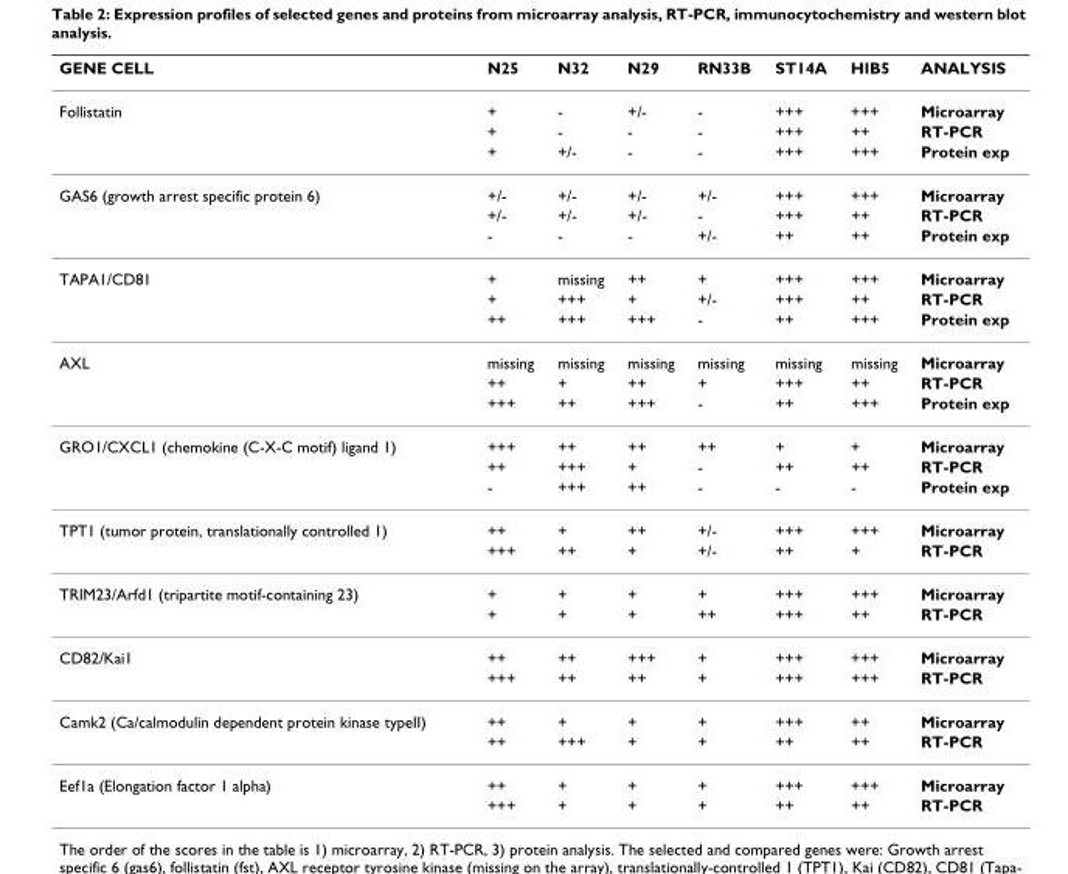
<table><thead><tr><td>GENE CELL</td><td>N25</td><td>N32</td><td>N29</td><td>RN33B</td><td>ST14A</td><td>HIB5</td><td>ANALYSIS</td></tr></thead><tbody><tr><td rowspan="3">Follistatin</td><td>+</td><td>-</td><td>+/-</td><td>-</td><td>+++</td><td>+++</td><td>Microarray</td></tr><tr><td>+</td><td>-</td><td>-</td><td>-</td><td>+++</td><td>++</td><td>RT-PCR</td></tr><tr><td>+</td><td>+/-</td><td>-</td><td>-</td><td>+++</td><td>+++</td><td>Protein exp</td></tr><tr><td rowspan="3">GAS6 (growth arrest specific protein 6)</td><td>+/-</td><td>+/-</td><td>+/-</td><td>+/-</td><td>+++</td><td>+++</td><td>Microarray</td></tr><tr><td>+/-</td><td>+/-</td><td>+/-</td><td>-</td><td>+++</td><td>++</td><td>RT-PCR</td></tr><tr><td>-</td><td>-</td><td>-</td><td>+/-</td><td>++</td><td>++</td><td>Protein exp</td></tr><tr><td rowspan="3">TAPA1/CD81</td><td>+</td><td>missing</td><td>++</td><td>+</td><td>+++</td><td>+++</td><td>Microarray</td></tr><tr><td>+</td><td>+++</td><td>+</td><td>+/-</td><td>+++</td><td>++</td><td>RT-PCR</td></tr><tr><td>++</td><td>+++</td><td>+++</td><td>-</td><td>++</td><td>+++</td><td>Protein exp</td></tr><tr><td rowspan="3">AXL</td><td>missing</td><td>missing</td><td>missing</td><td>missing</td><td>missing</td><td>missing</td><td>Microarray</td></tr><tr><td>++</td><td>+</td><td>++</td><td>+</td><td>+++</td><td>++</td><td>RT-PCR</td></tr><tr><td>+++</td><td>++</td><td>+++</td><td>-</td><td>++</td><td>+++</td><td>Protein exp</td></tr><tr><td rowspan="3">GRO1/CXCL1 (chemokine (C-X-C motif) ligand 1)</td><td>+++</td><td>++</td><td>++</td><td>++</td><td>+</td><td>+</td><td>Microarray</td></tr><tr><td>++</td><td>+++</td><td>+</td><td>-</td><td>++</td><td>++</td><td>RT-PCR</td></tr><tr><td>-</td><td>+++</td><td>++</td><td>-</td><td>-</td><td>-</td><td>Protein exp</td></tr><tr><td rowspan="2">TPT1 (tumor protein, translationally controlled 1)</td><td>++</td><td>+</td><td>++</td><td>+/-</td><td>+++</td><td>+++</td><td>Microarray</td></tr><tr><td>+++</td><td>++</td><td>+</td><td>+/-</td><td>++</td><td>+</td><td>RT-PCR</td></tr><tr><td rowspan="2">TRIM23/Arfd1 (tripartite motif-containing 23)</td><td>+</td><td>+</td><td>+</td><td>+</td><td>+++</td><td>+++</td><td>Microarray</td></tr><tr><td>+</td><td>+</td><td>+</td><td>++</td><td>+++</td><td>++</td><td>RT-PCR</td></tr><tr><td rowspan="2">CD82/Kai1</td><td>++</td><td>++</td><td>+++</td><td>+</td><td>+++</td><td>+++</td><td>Microarray</td></tr><tr><td>+++</td><td>++</td><td>++</td><td>+</td><td>+++</td><td>+++</td><td>RT-PCR</td></tr><tr><td rowspan="2">Camk2 (Ca/calmodulin dependent protein kinase typeII)</td><td>++</td><td>+</td><td>+</td><td>+</td><td>+++</td><td>++</td><td>Microarray</td></tr><tr><td>++</td><td>+++</td><td>+</td><td>+</td><td>++</td><td>++</td><td>RT-PCR</td></tr><tr><td rowspan="2">Eef1a (Elongation factor 1 alpha)</td><td>++</td><td>+</td><td>+</td><td>+</td><td>+++</td><td>+++</td><td>Microarray</td></tr><tr><td>+++</td><td>+</td><td>+</td><td>+</td><td>++</td><td>++</td><td>RT-PCR</td></tr></tbody></table>